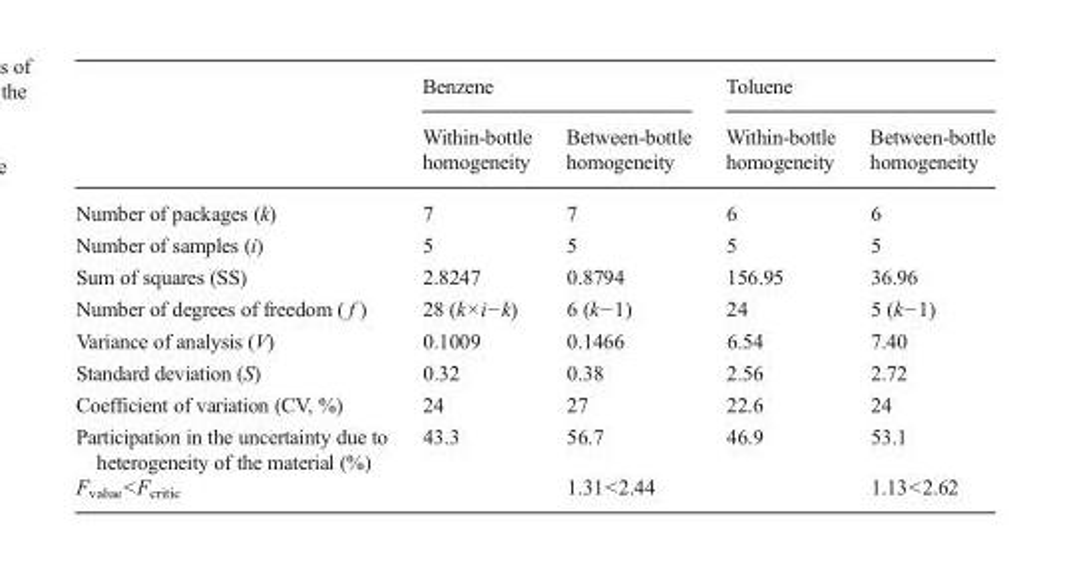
<table><thead><tr><td rowspan="2"></td><td colspan="2">Benzene</td><td colspan="2">Toluene</td></tr><tr><td>Within-bottle homogeneity</td><td>Between-bottle homogeneity</td><td>Within-bottle homogeneity</td><td>Between-bottle homogeneity</td></tr></thead><tbody><tr><td>Number of packages (k)</td><td>7</td><td>7</td><td>6</td><td>6</td></tr><tr><td>Number of samples (i)</td><td>5</td><td>5</td><td>5</td><td>5</td></tr><tr><td>Sum of squares (SS)</td><td>2.8247</td><td>0.8794</td><td>156.95</td><td>36.96</td></tr><tr><td>Number of degrees of freedom ( f )</td><td>28 (k×i−k)</td><td>6 (k−1)</td><td>24</td><td>5 (k−1)</td></tr><tr><td>Variance of analysis (V)</td><td>0.1009</td><td>0.1466</td><td>6.54</td><td>7.40</td></tr><tr><td>Standard deviation (S)</td><td>0.32</td><td>0.38</td><td>2.56</td><td>2.72</td></tr><tr><td>Coefficient of variation (CV, %)</td><td>24</td><td>27</td><td>22.6</td><td>24</td></tr><tr><td>Participation in the uncertainty due to heterogeneity of the material (%)</td><td>43.3</td><td>56.7</td><td>46.9</td><td>53.1</td></tr><tr><td>F<sub>value</sub>&lt;F<sub>critic</sub></td><td></td><td>1.31&lt;2.44</td><td></td><td>1.13&lt;2.62</td></tr></tbody></table>